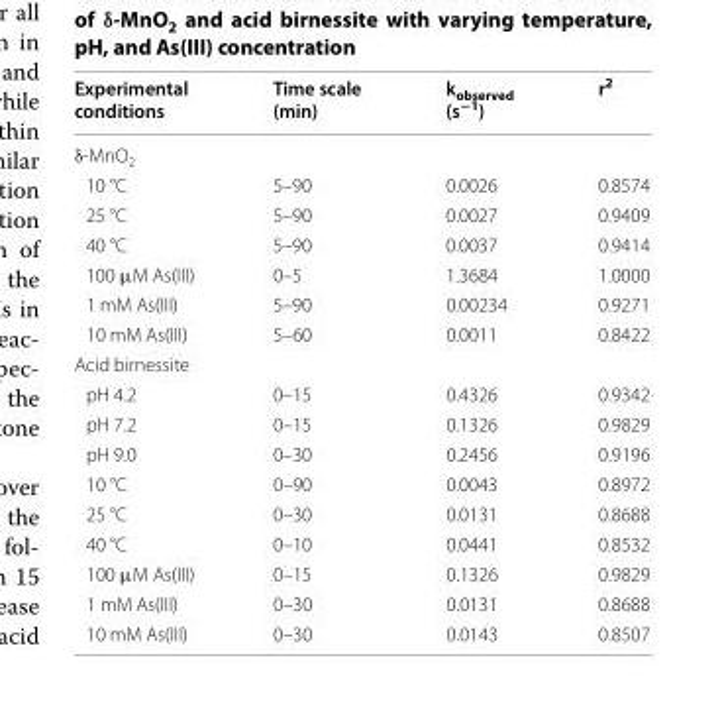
<table><thead><tr><td>Experimental conditions</td><td>Time scale (min)</td><td>k<sub>observed</sub> (s<sup>−1</sup>)</td><td>r<sup>2</sup></td></tr></thead><tbody><tr><td colspan="4">δ-MnO<sub>2</sub></td></tr><tr><td>10 °C</td><td>5–90</td><td>0.0026</td><td>0.8574</td></tr><tr><td>25 °C</td><td>5–90</td><td>0.0027</td><td>0.9409</td></tr><tr><td>40 °C</td><td>5–90</td><td>0.0037</td><td>0.9414</td></tr><tr><td>100 μM As(III)</td><td>0–5</td><td>1.3684</td><td>1.0000</td></tr><tr><td>1 mM As(III)</td><td>5–90</td><td>0.00234</td><td>0.9271</td></tr><tr><td>10 mM As(III)</td><td>5–60</td><td>0.0011</td><td>0.8422</td></tr><tr><td colspan="4">Acid birnessite</td></tr><tr><td>pH 4.2</td><td>0–15</td><td>0.4326</td><td>0.9342</td></tr><tr><td>pH 7.2</td><td>0–15</td><td>0.1326</td><td>0.9829</td></tr><tr><td>pH 9.0</td><td>0–30</td><td>0.2456</td><td>0.9196</td></tr><tr><td>10 °C</td><td>0–90</td><td>0.0043</td><td>0.8972</td></tr><tr><td>25 °C</td><td>0–30</td><td>0.0131</td><td>0.8688</td></tr><tr><td>40 °C</td><td>0–10</td><td>0.0441</td><td>0.8532</td></tr><tr><td>100 μM As(III)</td><td>0–15</td><td>0.1326</td><td>0.9829</td></tr><tr><td>1 mM As(III)</td><td>0–30</td><td>0.0131</td><td>0.8688</td></tr><tr><td>10 mM As(III)</td><td>0–30</td><td>0.0143</td><td>0.8507</td></tr></tbody></table>